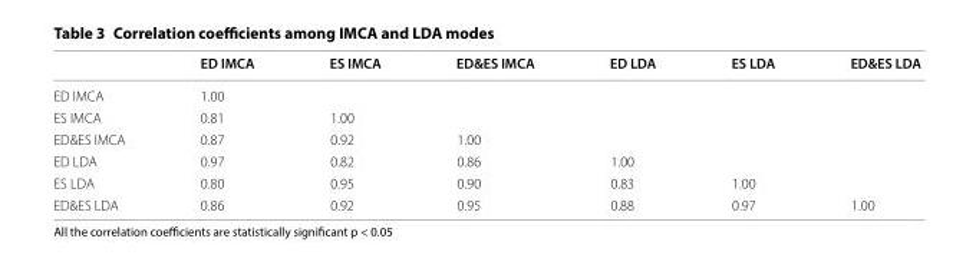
<table><thead><tr><td></td><td>ED IMCA</td><td>ES IMCA</td><td>ED&amp;ES IMCA</td><td>ED LDA</td><td>ES LDA</td><td>ED&amp;ES LDA</td></tr></thead><tbody><tr><td>ED IMCA</td><td>1.00</td><td></td><td></td><td></td><td></td><td></td></tr><tr><td>ES IMCA</td><td>0.81</td><td>1.00</td><td></td><td></td><td></td><td></td></tr><tr><td>ED&amp;ES IMCA</td><td>0.87</td><td>0.92</td><td>1.00</td><td></td><td></td><td></td></tr><tr><td>ED LDA</td><td>0.97</td><td>0.82</td><td>0.86</td><td>1.00</td><td></td><td></td></tr><tr><td>ES LDA</td><td>0.80</td><td>0.95</td><td>0.90</td><td>0.83</td><td>1.00</td><td></td></tr><tr><td>ED&amp;ES LDA</td><td>0.86</td><td>0.92</td><td>0.95</td><td>0.88</td><td>0.97</td><td>1.00</td></tr></tbody></table>